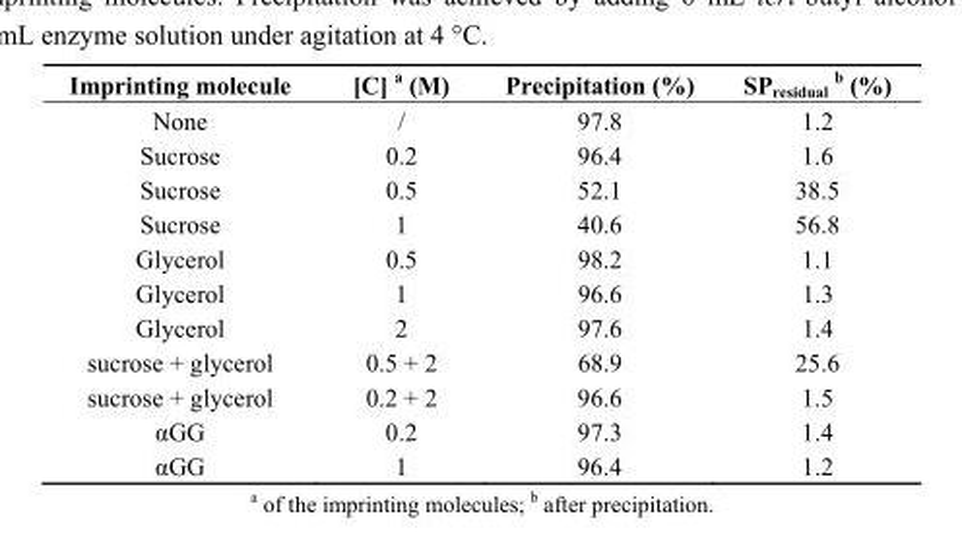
<table><thead><tr><td>Imprinting molecule</td><td>[C] a (M)</td><td>Precipitation (%)</td><td>SP<sub>residual</sub> b (%)</td></tr></thead><tbody><tr><td>None</td><td>/</td><td>97.8</td><td>1.2</td></tr><tr><td>Sucrose</td><td>0.2</td><td>96.4</td><td>1.6</td></tr><tr><td>Sucrose</td><td>0.5</td><td>52.1</td><td>38.5</td></tr><tr><td>Sucrose</td><td>1</td><td>40.6</td><td>56.8</td></tr><tr><td>Glycerol</td><td>0.5</td><td>98.2</td><td>1.1</td></tr><tr><td>Glycerol</td><td>1</td><td>96.6</td><td>1.3</td></tr><tr><td>Glycerol</td><td>2</td><td>97.6</td><td>1.4</td></tr><tr><td>sucrose + glycerol</td><td>0.5 + 2</td><td>68.9</td><td>25.6</td></tr><tr><td>sucrose + glycerol</td><td>0.2 + 2</td><td>96.6</td><td>1.5</td></tr><tr><td>αGG</td><td>0.2</td><td>97.3</td><td>1.4</td></tr><tr><td>αGG</td><td>1</td><td>96.4</td><td>1.2</td></tr></tbody></table>